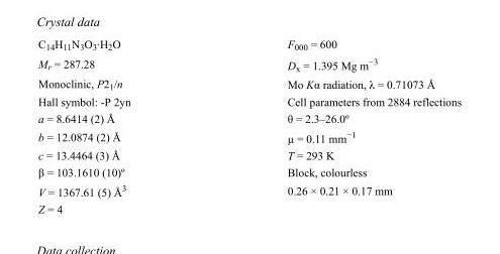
<table><tbody><tr><td>C<sub>14</sub>H<sub>11</sub>N<sub>3</sub>O<sub>3</sub>·H<sub>2</sub>O</td><td>F000 = 600</td></tr><tr><td>M<sub>r</sub> = 287.28</td><td>D<sub>x</sub> = 1.395 Mg m<sup>−3</sup></td></tr><tr><td>Monoclinic, P2<sub>1</sub>/n</td><td>Mo Kα radiation, λ = 0.71073 Å</td></tr><tr><td>Hall symbol: -P 2yn</td><td>Cell parameters from 2884 reflections</td></tr><tr><td>a = 8.6414 (2) Å</td><td>θ = 2.3–26.0º</td></tr><tr><td>b = 12.0874 (2) Å</td><td>µ = 0.11 mm<sup>−1</sup></td></tr><tr><td>c = 13.4464 (3) Å</td><td>T = 293 K</td></tr><tr><td>β = 103.1610 (10)º</td><td>Block, colourless</td></tr><tr><td>V = 1367.61 (5) Å<sup>3</sup></td><td>0.26 × 0.21 × 0.17 mm</td></tr><tr><td>Z = 4</td><td></td></tr></tbody></table>